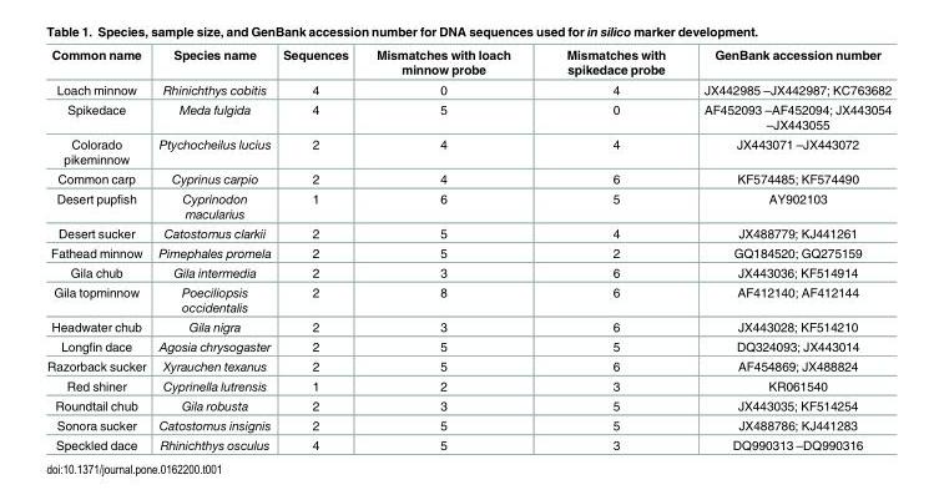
<table><thead><tr><td>Common name</td><td>Species name</td><td>Sequences</td><td>Mismatches with loach minnow probe</td><td>Mismatches with spikedace probe</td><td>GenBank accession number</td></tr></thead><tbody><tr><td>Loach minnow</td><td>Rhinichthys cobitis</td><td>4</td><td>0</td><td>4</td><td>JX442985 –JX442987; KC763682</td></tr><tr><td>Spikedace</td><td>Meda fulgida</td><td>4</td><td>5</td><td>0</td><td>AF452093 –AF452094; JX443054 –JX443055</td></tr><tr><td>Colorado pikeminnow</td><td>Ptychocheilus lucius</td><td>2</td><td>4</td><td>4</td><td>JX443071 –JX443072</td></tr><tr><td>Common carp</td><td>Cyprinus carpio</td><td>2</td><td>4</td><td>6</td><td>KF574485; KF574490</td></tr><tr><td>Desert pupfish</td><td>Cyprinodon macularius</td><td>1</td><td>6</td><td>5</td><td>AY902103</td></tr><tr><td>Desert sucker</td><td>Catostomus clarkii</td><td>2</td><td>5</td><td>4</td><td>JX488779; KJ441261</td></tr><tr><td>Fathead minnow</td><td>Pimephales promela</td><td>2</td><td>5</td><td>2</td><td>GQ184520; GQ275159</td></tr><tr><td>Gila chub</td><td>Gila intermedia</td><td>2</td><td>3</td><td>6</td><td>JX443036; KF514914</td></tr><tr><td>Gila topminnow</td><td>Poeciliopsis occidentalis</td><td>2</td><td>8</td><td>6</td><td>AF412140; AF412144</td></tr><tr><td>Headwater chub</td><td>Gila nigra</td><td>2</td><td>3</td><td>6</td><td>JX443028; KF514210</td></tr><tr><td>Longfin dace</td><td>Agosia chrysogaster</td><td>2</td><td>5</td><td>5</td><td>DQ324093; JX443014</td></tr><tr><td>Razorback sucker</td><td>Xyrauchen texanus</td><td>2</td><td>5</td><td>6</td><td>AF454869; JX488824</td></tr><tr><td>Red shiner</td><td>Cyprinella lutrensis</td><td>1</td><td>2</td><td>3</td><td>KR061540</td></tr><tr><td>Roundtail chub</td><td>Gila robusta</td><td>2</td><td>3</td><td>5</td><td>JX443035; KF514254</td></tr><tr><td>Sonora sucker</td><td>Catostomus insignis</td><td>2</td><td>5</td><td>5</td><td>JX488786; KJ441283</td></tr><tr><td>Speckled dace</td><td>Rhinichthys osculus</td><td>4</td><td>5</td><td>3</td><td>DQ990313 –DQ990316</td></tr></tbody></table>